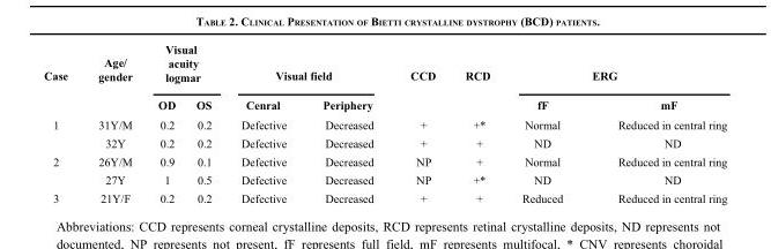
<table><thead><tr><td rowspan="2">Case</td><td rowspan="2">Age/ gender</td><td colspan="2">Visual acuity logmar</td><td colspan="2">Visual field</td><td rowspan="2">CCD</td><td rowspan="2">RCD</td><td colspan="2">ERG</td></tr><tr><td>OD</td><td>OS</td><td>Cenral</td><td>Periphery</td><td>fF</td><td>mF</td></tr></thead><tbody><tr><td rowspan="2">1</td><td>31Y/M</td><td>0.2</td><td>0.2</td><td>Defective</td><td>Decreased</td><td>+</td><td>+*</td><td>Normal</td><td>Reduced in central ring</td></tr><tr><td>32Y</td><td>0.2</td><td>0.2</td><td>Defective</td><td>Decreased</td><td>+</td><td>+</td><td>ND</td><td>ND</td></tr><tr><td rowspan="2">2</td><td>26Y/M</td><td>0.9</td><td>0.1</td><td>Defective</td><td>Decreased</td><td>NP</td><td>+</td><td>Normal</td><td>Reduced in central ring</td></tr><tr><td>27Y</td><td>1</td><td>0.5</td><td>Defective</td><td>Decreased</td><td>NP</td><td>+*</td><td>ND</td><td>ND</td></tr><tr><td>3</td><td>21Y/F</td><td>0.2</td><td>0.2</td><td>Defective</td><td>Decreased</td><td>+</td><td>+</td><td>Reduced</td><td>Reduced in central ring</td></tr></tbody></table>